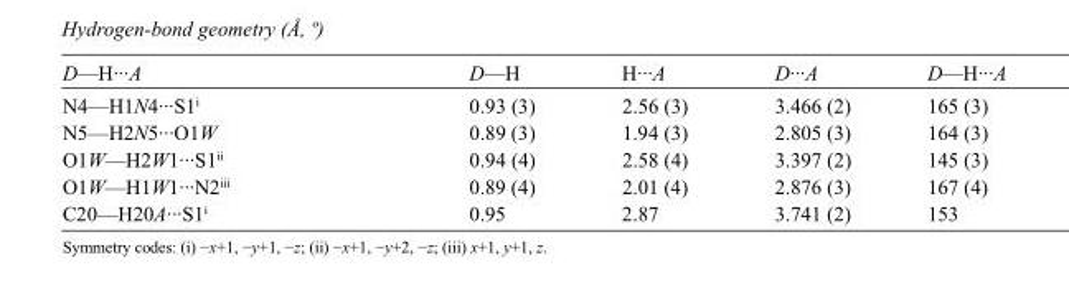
<table><tbody><tr><td>D—H···A</td><td>D—H</td><td>H···A</td><td>D···A</td><td>D—H···A</td></tr><tr><td>N4—H1N4···S1<sup>i</sup></td><td>0.93 (3)</td><td>2.56 (3)</td><td>3.466 (2)</td><td>165 (3)</td></tr><tr><td>N5—H2N5···O1W</td><td>0.89 (3)</td><td>1.94 (3)</td><td>2.805 (3)</td><td>164 (3)</td></tr><tr><td>O1W—H2W1···S1<sup>ii</sup></td><td>0.94 (4)</td><td>2.58 (4)</td><td>3.397 (2)</td><td>145 (3)</td></tr><tr><td>O1W—H1W1···N2<sup>iii</sup></td><td>0.89 (4)</td><td>2.01 (4)</td><td>2.876 (3)</td><td>167 (4)</td></tr><tr><td>C20—H20A···S1<sup>i</sup></td><td>0.95</td><td>2.87</td><td>3.741 (2)</td><td>153</td></tr></tbody></table>